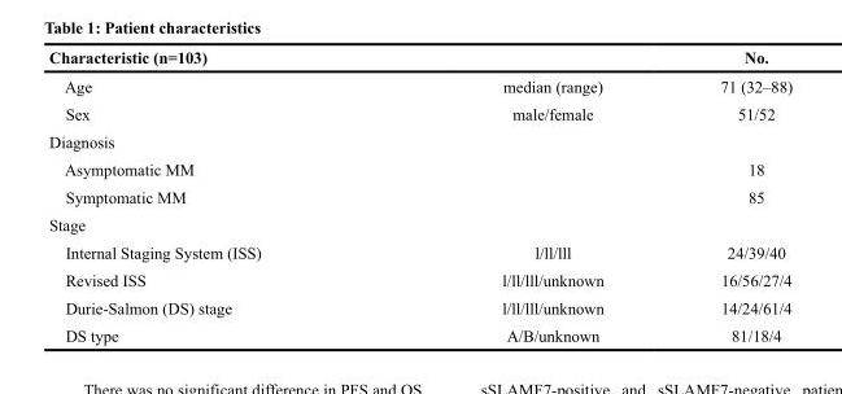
<table><thead><tr><td>Characteristic (n=103)</td><td></td><td>No.</td></tr></thead><tbody><tr><td>Age</td><td>median (range)</td><td>71 (32–88)</td></tr><tr><td>Sex</td><td>male/female</td><td>51/52</td></tr><tr><td colspan="3">Diagnosis</td></tr><tr><td>Asymptomatic MM</td><td></td><td>18</td></tr><tr><td>Symptomatic MM</td><td></td><td>85</td></tr><tr><td colspan="3">Stage</td></tr><tr><td>Internal Staging System (ISS)</td><td>l/ll/lll</td><td>24/39/40</td></tr><tr><td>Revised ISS</td><td>l/ll/lll/unknown</td><td>16/56/27/4</td></tr><tr><td>Durie-Salmon (DS) stage</td><td>l/ll/lll/unknown</td><td>14/24/61/4</td></tr><tr><td>DS type</td><td>A/B/unknown</td><td>81/18/4</td></tr></tbody></table>